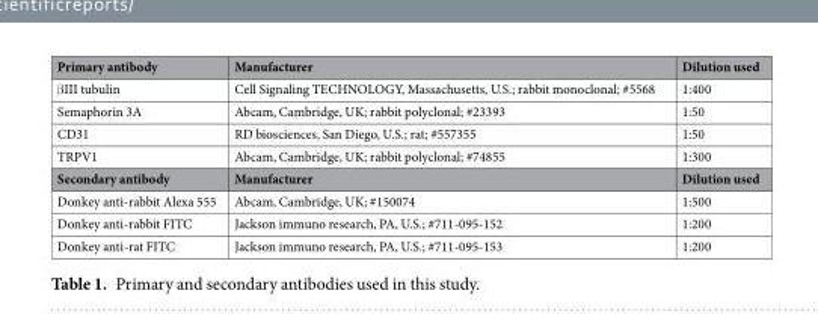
<table><thead><tr><td>Primary antibody</td><td>Manufacturer</td><td>Dilution used</td></tr></thead><tbody><tr><td>βIII tubulin</td><td>Cell Signaling TECHNOLOGY, Massachusetts, U.S.; rabbit monoclonal; #5568</td><td>1:400</td></tr><tr><td>Semaphorin 3A</td><td>Abcam, Cambridge, UK; rabbit polyclonal; #23393</td><td>1:50</td></tr><tr><td>CD31</td><td>RD biosciences, San Diego, U.S.; rat; #557355</td><td>1:50</td></tr><tr><td>TRPV1</td><td>Abcam, Cambridge, UK; rabbit polyclonal; #74855</td><td>1:300</td></tr><tr><td>Secondary antibody</td><td>Manufacturer</td><td>Dilution used</td></tr><tr><td>Donkey anti-rabbit Alexa 555</td><td>Abcam, Cambridge, UK; #150074</td><td>1:500</td></tr><tr><td>Donkey anti-rabbit FITC</td><td>Jackson immuno research, PA, U.S.; #711-095-152</td><td>1:200</td></tr><tr><td>Donkey anti-rat FITC</td><td>Jackson immuno research, PA, U.S.; #711-095-153</td><td>1:200</td></tr></tbody></table>